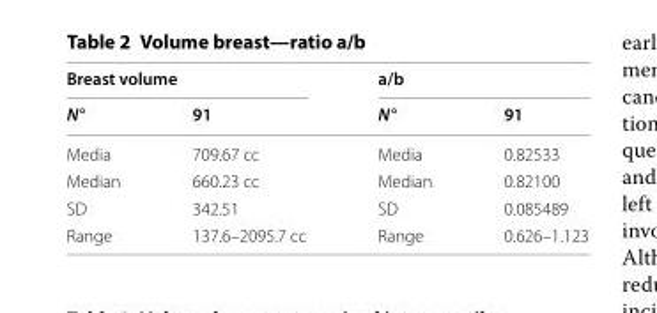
<table><thead><tr><td colspan="2">Breast volume</td><td colspan="2">a/b</td></tr><tr><td>N°</td><td>91</td><td>N°</td><td>91</td></tr></thead><tbody><tr><td>Media</td><td>709.67 cc</td><td>Media</td><td>0.82533</td></tr><tr><td>Median</td><td>660.23 cc</td><td>Median</td><td>0.82100</td></tr><tr><td>SD</td><td>342.51</td><td>SD</td><td>0.085489</td></tr><tr><td>Range</td><td>137.6–2095.7 cc</td><td>Range</td><td>0.626–1.123</td></tr></tbody></table>